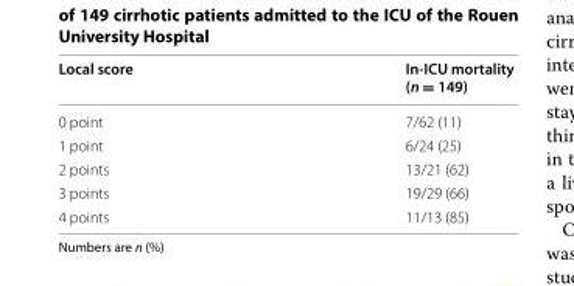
<table><thead><tr><td>Local score</td><td>In‑ICU mortality (n = 149)</td></tr></thead><tbody><tr><td>0 point</td><td>7/62 (11)</td></tr><tr><td>1 point</td><td>6/24 (25)</td></tr><tr><td>2 points</td><td>13/21 (62)</td></tr><tr><td>3 points</td><td>19/29 (66)</td></tr><tr><td>4 points</td><td>11/13 (85)</td></tr></tbody></table>